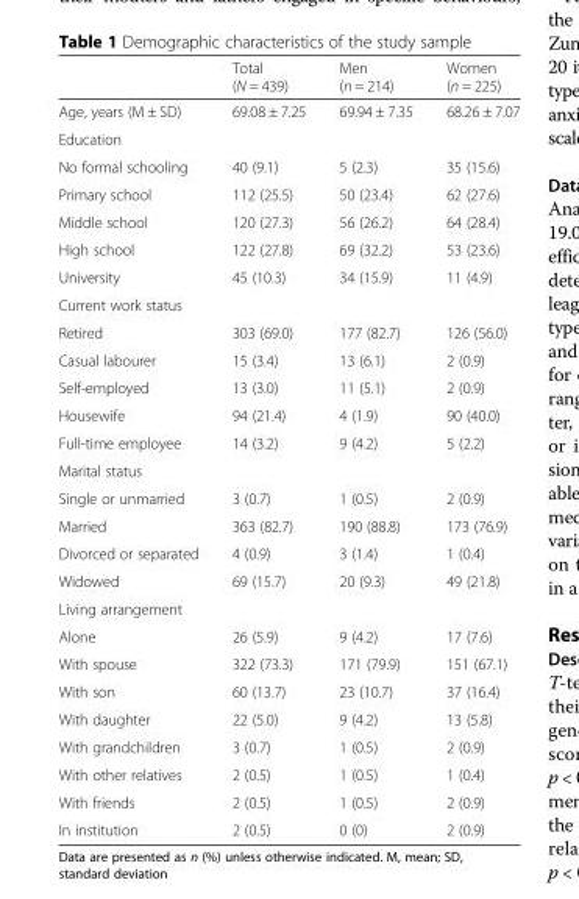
<table><thead><tr><td></td><td>Total (N = 439)</td><td>Men (n = 214)</td><td>Women (n = 225)</td></tr></thead><tbody><tr><td>Age, years (M ± SD)</td><td>69.08 ± 7.25</td><td>69.94 ± 7.35</td><td>68.26 ± 7.07</td></tr><tr><td colspan="4">Education</td></tr><tr><td>No formal schooling</td><td>40 (9.1)</td><td>5 (2.3)</td><td>35 (15.6)</td></tr><tr><td>Primary school</td><td>112 (25.5)</td><td>50 (23.4)</td><td>62 (27.6)</td></tr><tr><td>Middle school</td><td>120 (27.3)</td><td>56 (26.2)</td><td>64 (28.4)</td></tr><tr><td>High school</td><td>122 (27.8)</td><td>69 (32.2)</td><td>53 (23.6)</td></tr><tr><td>University</td><td>45 (10.3)</td><td>34 (15.9)</td><td>11 (4.9)</td></tr><tr><td colspan="4">Current work status</td></tr><tr><td>Retired</td><td>303 (69.0)</td><td>177 (82.7)</td><td>126 (56.0)</td></tr><tr><td>Casual labourer</td><td>15 (3.4)</td><td>13 (6.1)</td><td>2 (0.9)</td></tr><tr><td>Self-employed</td><td>13 (3.0)</td><td>11 (5.1)</td><td>2 (0.9)</td></tr><tr><td>Housewife</td><td>94 (21.4)</td><td>4 (1.9)</td><td>90 (40.0)</td></tr><tr><td>Full-time employee</td><td>14 (3.2)</td><td>9 (4.2)</td><td>5 (2.2)</td></tr><tr><td colspan="4">Marital status</td></tr><tr><td>Single or unmarried</td><td>3 (0.7)</td><td>1 (0.5)</td><td>2 (0.9)</td></tr><tr><td>Married</td><td>363 (82.7)</td><td>190 (88.8)</td><td>173 (76.9)</td></tr><tr><td>Divorced or separated</td><td>4 (0.9)</td><td>3 (1.4)</td><td>1 (0.4)</td></tr><tr><td>Widowed</td><td>69 (15.7)</td><td>20 (9.3)</td><td>49 (21.8)</td></tr><tr><td colspan="4">Living arrangement</td></tr><tr><td>Alone</td><td>26 (5.9)</td><td>9 (4.2)</td><td>17 (7.6)</td></tr><tr><td>With spouse</td><td>322 (73.3)</td><td>171 (79.9)</td><td>151 (67.1)</td></tr><tr><td>With son</td><td>60 (13.7)</td><td>23 (10.7)</td><td>37 (16.4)</td></tr><tr><td>With daughter</td><td>22 (5.0)</td><td>9 (4.2)</td><td>13 (5.8)</td></tr><tr><td>With grandchildren</td><td>3 (0.7)</td><td>1 (0.5)</td><td>2 (0.9)</td></tr><tr><td>With other relatives</td><td>2 (0.5)</td><td>1 (0.5)</td><td>1 (0.4)</td></tr><tr><td>With friends</td><td>2 (0.5)</td><td>1 (0.5)</td><td>2 (0.9)</td></tr><tr><td>In institution</td><td>2 (0.5)</td><td>0 (0)</td><td>2 (0.9)</td></tr></tbody></table>